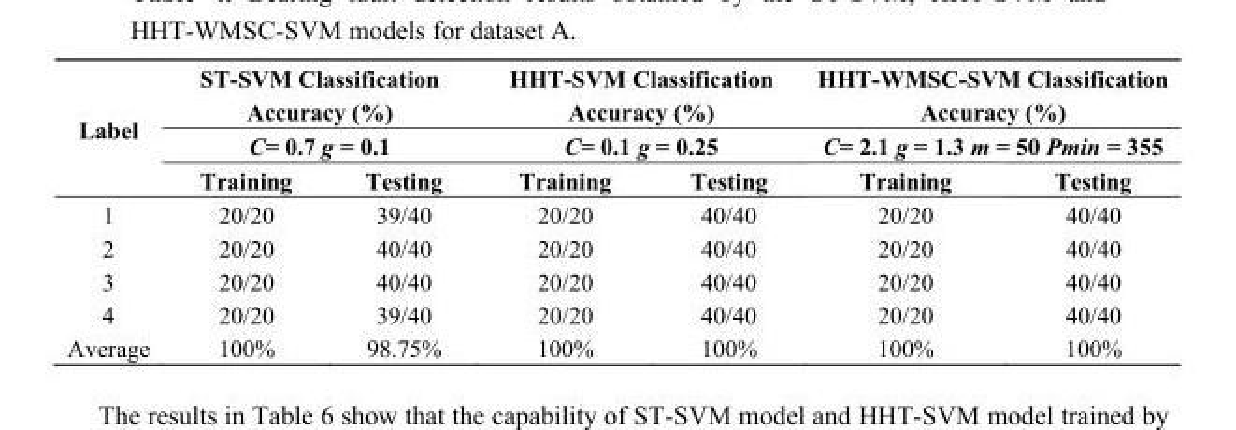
<table><thead><tr><td rowspan="3">Label</td><td rowspan="2" colspan="2">ST-SVM Classification Accuracy (%) C= 0.7 g = 0.1</td><td rowspan="2" colspan="2">HHT-SVM Classification Accuracy (%) C= 0.1 g = 0.25</td><td rowspan="2" colspan="2">HHT-WMSC-SVM Classification Accuracy (%) C= 2.1 g = 1.3 m = 50 Pmin = 355</td></tr><tr></tr><tr><td>Training</td><td>Testing</td><td>Training</td><td>Testing</td><td>Training</td><td>Testing</td></tr></thead><tbody><tr><td>1</td><td>20/20</td><td>39/40</td><td>20/20</td><td>40/40</td><td>20/20</td><td>40/40</td></tr><tr><td>2</td><td>20/20</td><td>40/40</td><td>20/20</td><td>40/40</td><td>20/20</td><td>40/40</td></tr><tr><td>3</td><td>20/20</td><td>40/40</td><td>20/20</td><td>40/40</td><td>20/20</td><td>40/40</td></tr><tr><td>4</td><td>20/20</td><td>39/40</td><td>20/20</td><td>40/40</td><td>20/20</td><td>40/40</td></tr><tr><td>Average</td><td>100%</td><td>98.75%</td><td>100%</td><td>100%</td><td>100%</td><td>100%</td></tr></tbody></table>